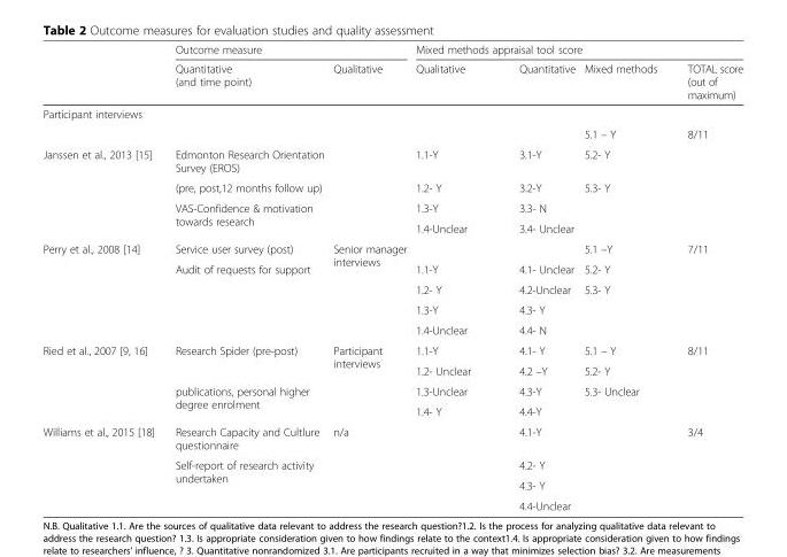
<table><thead><tr><td rowspan="2"></td><td colspan="2">Outcome measure</td><td colspan="4">Mixed methods appraisal tool score</td></tr><tr><td>Quantitative (and time point)</td><td>Qualitative</td><td>Qualitative</td><td>Quantitative</td><td>Mixed methods</td><td>TOTAL score (out of maximum)</td></tr></thead><tbody><tr><td colspan="7">Participant interviews</td></tr><tr><td></td><td></td><td></td><td></td><td></td><td>5.1 – Y</td><td rowspan="5">8/11</td></tr><tr><td rowspan="4">Janssen et al., 2013 [15]</td><td>Edmonton Research Orientation Survey (EROS)</td><td rowspan="4"></td><td>1.1-Y</td><td>3.1-Y</td><td>5.2- Y</td></tr><tr><td>(pre, post,12 months follow up)</td><td>1.2- Y</td><td>3.2-Y</td><td rowspan="3">5.3- Y</td></tr><tr><td rowspan="2">VAS-Confidence &amp; motivation towards research</td><td>1.3-Y</td><td>3.3- N</td></tr><tr><td>1.4-Unclear</td><td>3.4- Unclear</td></tr><tr><td rowspan="5">Perry et al., 2008 [14]</td><td>Service user survey (post)</td><td rowspan="5">Senior manager interviews</td><td></td><td></td><td>5.1 –Y</td><td rowspan="5">7/11</td></tr><tr><td rowspan="4">Audit of requests for support</td><td>1.1-Y</td><td>4.1- Unclear</td><td>5.2- Y</td></tr><tr><td>1.2- Y</td><td>4.2-Unclear</td><td rowspan="3">5.3- Y</td></tr><tr><td>1.3-Y</td><td>4.3- Y</td></tr><tr><td>1.4-Unclear</td><td>4.4- N</td></tr><tr><td rowspan="4">Ried et al., 2007 [9, 16]</td><td rowspan="2">Research Spider (pre-post)</td><td rowspan="4">Participant interviews</td><td>1.1-Y</td><td>4.1- Y</td><td>5.1 – Y</td><td rowspan="4">8/11</td></tr><tr><td>1.2- Unclear</td><td>4.2 –Y</td><td>5.2- Y</td></tr><tr><td rowspan="2">publications, personal higher degree enrolment</td><td>1.3-Unclear</td><td>4.3-Y</td><td rowspan="2">5.3- Unclear</td></tr><tr><td>1.4- Y</td><td>4.4-Y</td></tr><tr><td rowspan="4">Williams et al., 2015 [18]</td><td>Research Capacity and Cultlure questionnaire</td><td rowspan="4">n/a</td><td rowspan="4"></td><td>4.1-Y</td><td rowspan="4"></td><td rowspan="4">3/4</td></tr><tr><td rowspan="3">Self-report of research activity undertaken</td><td>4.2- Y</td></tr><tr><td>4.3- Y</td></tr><tr><td>4.4-Unclear</td></tr></tbody></table>